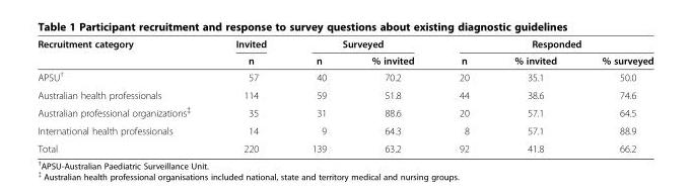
<table><thead><tr><td rowspan="2">Recruitment category</td><td rowspan="2">Invited n</td><td colspan="2">Surveyed</td><td colspan="3">Responded</td></tr><tr><td>n</td><td>% invited</td><td>n</td><td>% invited</td><td>% surveyed</td></tr></thead><tbody><tr><td>APSU<sup>†</sup></td><td>57</td><td>40</td><td>70.2</td><td>20</td><td>35.1</td><td>50.0</td></tr><tr><td>Australian health professionals</td><td>114</td><td>59</td><td>51.8</td><td>44</td><td>38.6</td><td>74.6</td></tr><tr><td>Australian professional organizations<sup>‡</sup></td><td>35</td><td>31</td><td>88.6</td><td>20</td><td>57.1</td><td>64.5</td></tr><tr><td>International health professionals</td><td>14</td><td>9</td><td>64.3</td><td>8</td><td>57.1</td><td>88.9</td></tr><tr><td>Total</td><td>220</td><td>139</td><td>63.2</td><td>92</td><td>41.8</td><td>66.2</td></tr></tbody></table>